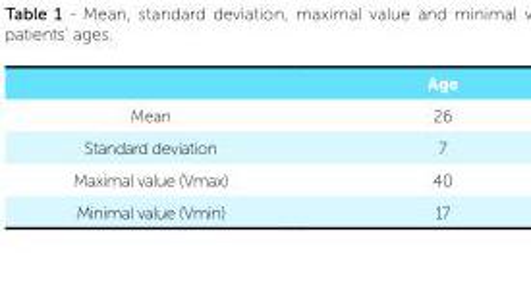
<table><thead><tr><td></td><td>Age</td></tr></thead><tbody><tr><td>Mean</td><td>26</td></tr><tr><td>Standard deviation</td><td>7</td></tr><tr><td>Maximal value (Vmax)</td><td>40</td></tr><tr><td>Minimal value (Vmin)</td><td>17</td></tr></tbody></table>